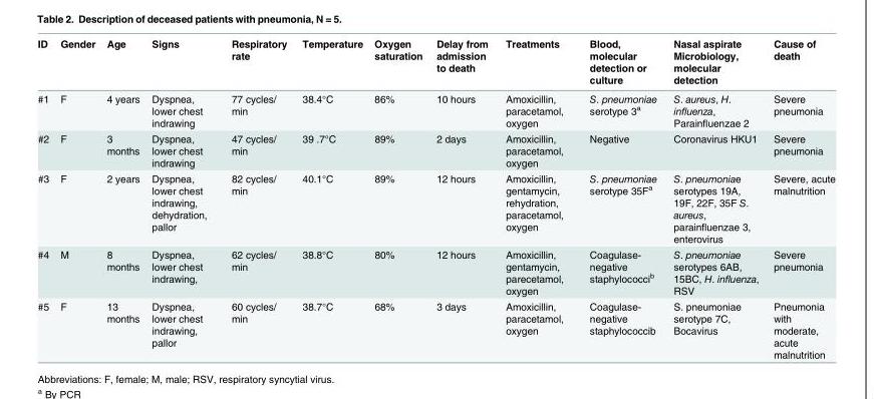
<table><thead><tr><td>ID</td><td>Gender</td><td>Age</td><td>Signs</td><td>Respiratory rate</td><td>Temperature</td><td>Oxygen saturation</td><td>Delay from admission to death</td><td>Treatments</td><td>Blood, molecular detection or culture</td><td>Nasal aspirate Microbiology, molecular detection</td><td>Cause of death</td></tr></thead><tbody><tr><td>#1</td><td>F</td><td>4 years</td><td>Dyspnea, lower chest indrawing</td><td>77 cycles/ min</td><td>38.4°C</td><td>86%</td><td>10 hours</td><td>Amoxicillin, paracetamol, oxygen</td><td>S. pneumoniae serotype 3<sup>a</sup></td><td>S. aureus, H. influenza, Parainfluenzae 2</td><td>Severe pneumonia</td></tr><tr><td>#2</td><td>F</td><td>3 months</td><td>Dyspnea, lower chest indrawing</td><td>47 cycles/ min</td><td>39 .7°C</td><td>89%</td><td>2 days</td><td>Amoxicillin, paracetamol, oxygen</td><td>Negative</td><td>Coronavirus HKU1</td><td>Severe pneumonia</td></tr><tr><td>#3</td><td>F</td><td>2 years</td><td>Dyspnea, lower chest indrawing, dehydration, pallor</td><td>82 cycles/ min</td><td>40.1°C</td><td>89%</td><td>12 hours</td><td>Amoxicillin, gentamycin, rehydration, paracetamol, oxygen</td><td>S. pneumoniae serotype 35F<sup>a</sup></td><td>S. pneumoniae serotypes 19A, 19F, 22F, 35F S. aureus, parainfluenzae 3, enterovirus</td><td>Severe, acute malnutrition</td></tr><tr><td>#4</td><td>M</td><td>8 months</td><td>Dyspnea, lower chest indrawing,</td><td>62 cycles/ min</td><td>38.8°C</td><td>80%</td><td>12 hours</td><td>Amoxicillin, gentamycin, parecetamol, oxygen</td><td>Coagulase- negative staphylococci<sup>b</sup></td><td>S. pneumoniae serotypes 6AB, 15BC, H. influenza, RSV</td><td>Severe pneumonia</td></tr><tr><td>#5</td><td>F</td><td>13 months</td><td>Dyspnea, lower chest indrawing, pallor</td><td>60 cycles/ min</td><td>38.7°C</td><td>68%</td><td>3 days</td><td>Amoxicillin, paracetamol, oxygen</td><td>Coagulase- negative staphylococcib</td><td>S. pneumoniae serotype 7C, Bocavirus</td><td>Pneumonia with moderate, acute malnutrition</td></tr></tbody></table>